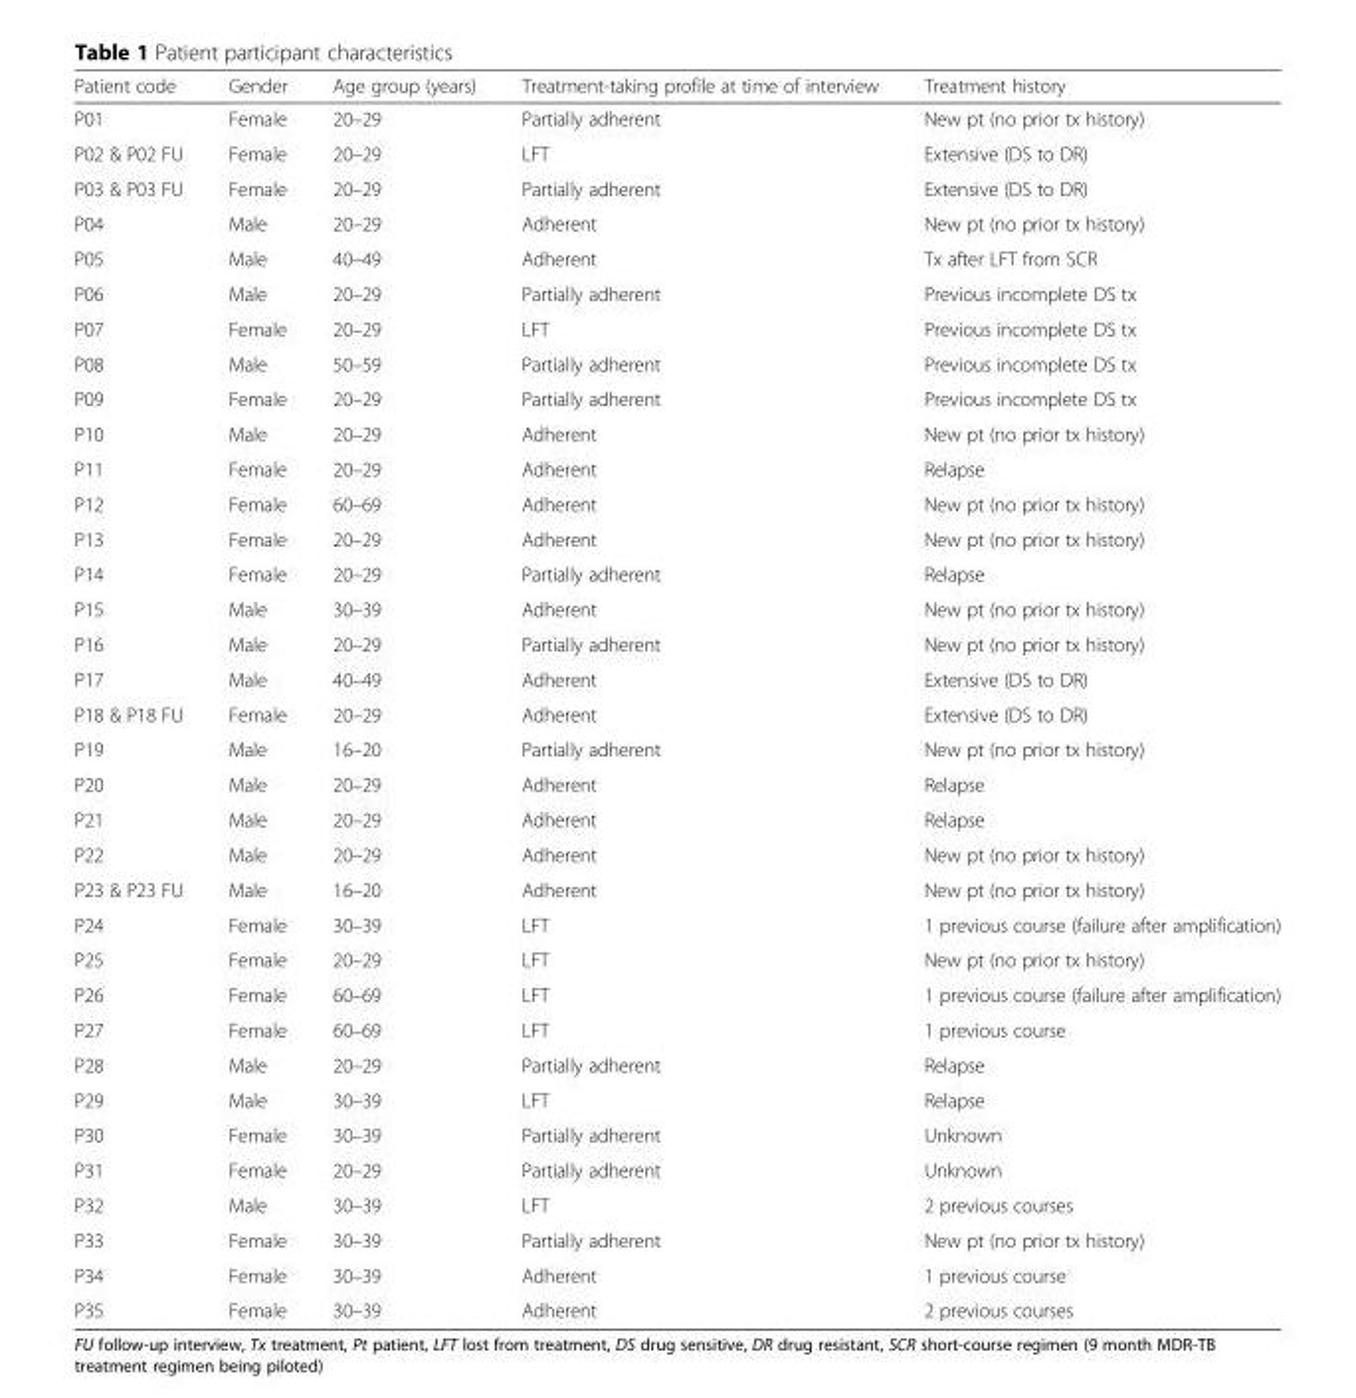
<table><thead><tr><td>Patient code</td><td>Gender</td><td>Age group (years)</td><td>Treatment-taking profile at time of interview</td><td>Treatment history</td></tr></thead><tbody><tr><td>P01</td><td>Female</td><td>20–29</td><td>Partially adherent</td><td>New pt (no prior tx history)</td></tr><tr><td>P02 &amp; P02 FU</td><td>Female</td><td>20–29</td><td>LFT</td><td>Extensive (DS to DR)</td></tr><tr><td>P03 &amp; P03 FU</td><td>Female</td><td>20–29</td><td>Partially adherent</td><td>Extensive (DS to DR)</td></tr><tr><td>P04</td><td>Male</td><td>20–29</td><td>Adherent</td><td>New pt (no prior tx history)</td></tr><tr><td>P05</td><td>Male</td><td>40–49</td><td>Adherent</td><td>Tx after LFT from SCR</td></tr><tr><td>P06</td><td>Male</td><td>20–29</td><td>Partially adherent</td><td>Previous incomplete DS tx</td></tr><tr><td>P07</td><td>Female</td><td>20–29</td><td>LFT</td><td>Previous incomplete DS tx</td></tr><tr><td>P08</td><td>Male</td><td>50–59</td><td>Partially adherent</td><td>Previous incomplete DS tx</td></tr><tr><td>P09</td><td>Female</td><td>20–29</td><td>Partially adherent</td><td>Previous incomplete DS tx</td></tr><tr><td>P10</td><td>Male</td><td>20–29</td><td>Adherent</td><td>New pt (no prior tx history)</td></tr><tr><td>P11</td><td>Female</td><td>20–29</td><td>Adherent</td><td>Relapse</td></tr><tr><td>P12</td><td>Female</td><td>60–69</td><td>Adherent</td><td>New pt (no prior tx history)</td></tr><tr><td>P13</td><td>Female</td><td>20–29</td><td>Adherent</td><td>New pt (no prior tx history)</td></tr><tr><td>P14</td><td>Female</td><td>20–29</td><td>Partially adherent</td><td>Relapse</td></tr><tr><td>P15</td><td>Male</td><td>30–39</td><td>Adherent</td><td>New pt (no prior tx history)</td></tr><tr><td>P16</td><td>Male</td><td>20–29</td><td>Partially adherent</td><td>New pt (no prior tx history)</td></tr><tr><td>P17</td><td>Male</td><td>40–49</td><td>Adherent</td><td>Extensive (DS to DR)</td></tr><tr><td>P18 &amp; P18 FU</td><td>Female</td><td>20–29</td><td>Adherent</td><td>Extensive (DS to DR)</td></tr><tr><td>P19</td><td>Male</td><td>16–20</td><td>Partially adherent</td><td>New pt (no prior tx history)</td></tr><tr><td>P20</td><td>Male</td><td>20–29</td><td>Adherent</td><td>Relapse</td></tr><tr><td>P21</td><td>Male</td><td>20–29</td><td>Adherent</td><td>Relapse</td></tr><tr><td>P22</td><td>Male</td><td>20–29</td><td>Adherent</td><td>New pt (no prior tx history)</td></tr><tr><td>P23 &amp; P23 FU</td><td>Male</td><td>16–20</td><td>Adherent</td><td>New pt (no prior tx history)</td></tr><tr><td>P24</td><td>Female</td><td>30–39</td><td>LFT</td><td>1 previous course (failure after amplification)</td></tr><tr><td>P25</td><td>Female</td><td>20–29</td><td>LFT</td><td>New pt (no prior tx history)</td></tr><tr><td>P26</td><td>Female</td><td>60–69</td><td>LFT</td><td>1 previous course (failure after amplification)</td></tr><tr><td>P27</td><td>Female</td><td>60–69</td><td>LFT</td><td>1 previous course</td></tr><tr><td>P28</td><td>Male</td><td>20–29</td><td>Partially adherent</td><td>Relapse</td></tr><tr><td>P29</td><td>Male</td><td>30–39</td><td>LFT</td><td>Relapse</td></tr><tr><td>P30</td><td>Female</td><td>30–39</td><td>Partially adherent</td><td>Unknown</td></tr><tr><td>P31</td><td>Female</td><td>20–29</td><td>Partially adherent</td><td>Unknown</td></tr><tr><td>P32</td><td>Male</td><td>30–39</td><td>LFT</td><td>2 previous courses</td></tr><tr><td>P33</td><td>Female</td><td>30–39</td><td>Partially adherent</td><td>New pt (no prior tx history)</td></tr><tr><td>P34</td><td>Female</td><td>30–39</td><td>Adherent</td><td>1 previous course</td></tr><tr><td>P35</td><td>Female</td><td>30–39</td><td>Adherent</td><td>2 previous courses</td></tr></tbody></table>